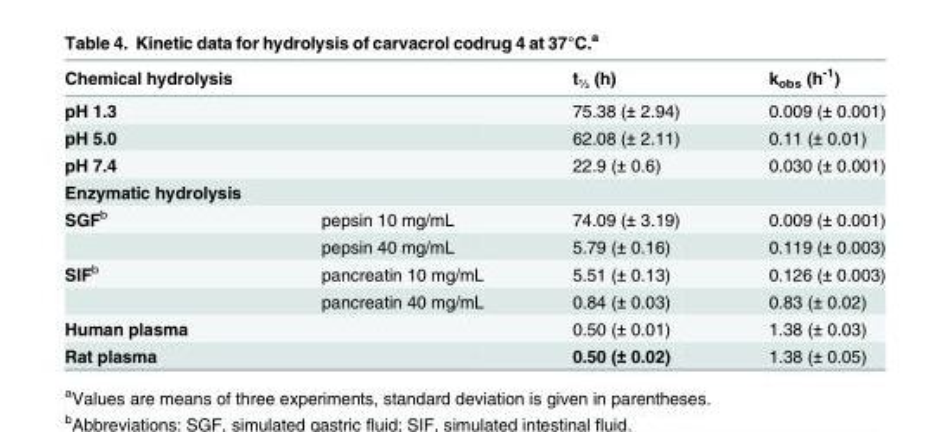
<table><thead><tr><td>Chemical hydrolysis</td><td></td><td>t<sub>½</sub> (h)</td><td>k<sub>obs</sub> (h<sup>-1</sup>)</td></tr></thead><tbody><tr><td>pH 1.3</td><td></td><td>75.38 (± 2.94)</td><td>0.009 (± 0.001)</td></tr><tr><td>pH 5.0</td><td></td><td>62.08 (± 2.11)</td><td>0.11 (± 0.01)</td></tr><tr><td>pH 7.4</td><td></td><td>22.9 (± 0.6)</td><td>0.030 (± 0.001)</td></tr><tr><td colspan="4">Enzymatic hydrolysis</td></tr><tr><td rowspan="2">SGF<sup>b</sup></td><td>pepsin 10 mg/mL</td><td>74.09 (± 3.19)</td><td>0.009 (± 0.001)</td></tr><tr><td>pepsin 40 mg/mL</td><td>5.79 (± 0.16)</td><td>0.119 (± 0.003)</td></tr><tr><td rowspan="2">SIF<sup>b</sup></td><td>pancreatin 10 mg/mL</td><td>5.51 (± 0.13)</td><td>0.126 (± 0.003)</td></tr><tr><td>pancreatin 40 mg/mL</td><td>0.84 (± 0.03)</td><td>0.83 (± 0.02)</td></tr><tr><td>Human plasma</td><td></td><td>0.50 (± 0.01)</td><td>1.38 (± 0.03)</td></tr><tr><td>Rat plasma</td><td></td><td>0.50 (± 0.02)</td><td>1.38 (± 0.05)</td></tr></tbody></table>